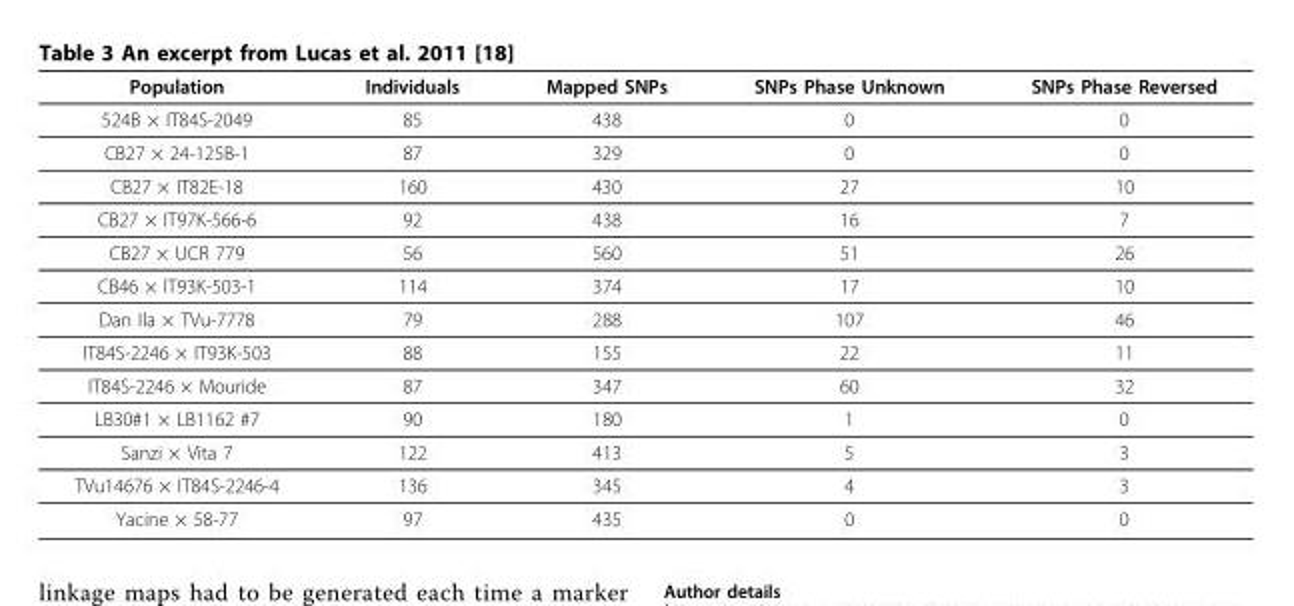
<table><thead><tr><td>Population</td><td>Individuals</td><td>Mapped SNPs</td><td>SNPs Phase Unknown</td><td>SNPs Phase Reversed</td></tr></thead><tbody><tr><td>524B × IT84S-2049</td><td>85</td><td>438</td><td>0</td><td>0</td></tr><tr><td>CB27 × 24-125B-1</td><td>87</td><td>329</td><td>0</td><td>0</td></tr><tr><td>CB27 × IT82E-18</td><td>160</td><td>430</td><td>27</td><td>10</td></tr><tr><td>CB27 × IT97K-566-6</td><td>92</td><td>438</td><td>16</td><td>7</td></tr><tr><td>CB27 × UCR 779</td><td>56</td><td>560</td><td>51</td><td>26</td></tr><tr><td>CB46 × IT93K-503-1</td><td>114</td><td>374</td><td>17</td><td>10</td></tr><tr><td>Dan Ila × TVu-7778</td><td>79</td><td>288</td><td>107</td><td>46</td></tr><tr><td>IT84S-2246 × IT93K-503</td><td>88</td><td>155</td><td>22</td><td>11</td></tr><tr><td>IT84S-2246 × Mouride</td><td>87</td><td>347</td><td>60</td><td>32</td></tr><tr><td>LB30#1 × LB1162 #7</td><td>90</td><td>180</td><td>1</td><td>0</td></tr><tr><td>Sanzi × Vita 7</td><td>122</td><td>413</td><td>5</td><td>3</td></tr><tr><td>TVu14676 × IT84S-2246-4</td><td>136</td><td>345</td><td>4</td><td>3</td></tr><tr><td>Yacine × 58-77</td><td>97</td><td>435</td><td>0</td><td>0</td></tr></tbody></table>